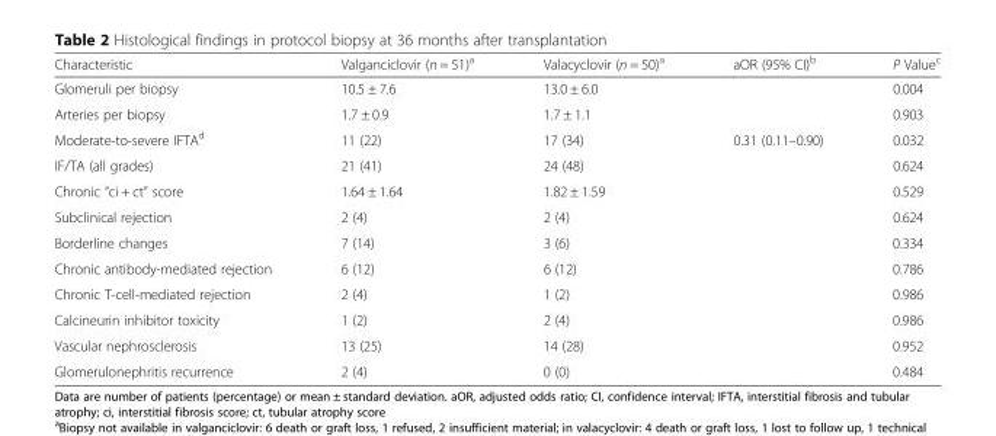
<table><thead><tr><td>Characteristic</td><td>Valganciclovir (n = 51)<sup>a</sup></td><td>Valacyclovir (n = 50)<sup>a</sup></td><td>aOR (95% CI)<sup>b</sup></td><td>P Value<sup>c</sup></td></tr></thead><tbody><tr><td>Glomeruli per biopsy</td><td>10.5 ± 7.6</td><td>13.0 ± 6.0</td><td></td><td>0.004</td></tr><tr><td>Arteries per biopsy</td><td>1.7 ± 0.9</td><td>1.7 ± 1.1</td><td></td><td>0.903</td></tr><tr><td>Moderate-to-severe IFTA<sup>d</sup></td><td>11 (22)</td><td>17 (34)</td><td>0.31 (0.11–0.90)</td><td>0.032</td></tr><tr><td>IF/TA (all grades)</td><td>21 (41)</td><td>24 (48)</td><td></td><td>0.624</td></tr><tr><td>Chronic “ci + ct” score</td><td>1.64 ± 1.64</td><td>1.82 ± 1.59</td><td></td><td>0.529</td></tr><tr><td>Subclinical rejection</td><td>2 (4)</td><td>2 (4)</td><td></td><td>0.624</td></tr><tr><td>Borderline changes</td><td>7 (14)</td><td>3 (6)</td><td></td><td>0.334</td></tr><tr><td>Chronic antibody-mediated rejection</td><td>6 (12)</td><td>6 (12)</td><td></td><td>0.786</td></tr><tr><td>Chronic T-cell-mediated rejection</td><td>2 (4)</td><td>1 (2)</td><td></td><td>0.986</td></tr><tr><td>Calcineurin inhibitor toxicity</td><td>1 (2)</td><td>2 (4)</td><td></td><td>0.986</td></tr><tr><td>Vascular nephrosclerosis</td><td>13 (25)</td><td>14 (28)</td><td></td><td>0.952</td></tr><tr><td>Glomerulonephritis recurrence</td><td>2 (4)</td><td>0 (0)</td><td></td><td>0.484</td></tr></tbody></table>